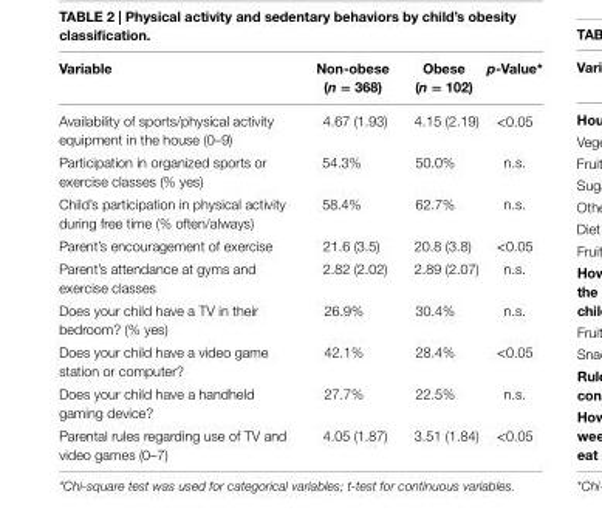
<table><thead><tr><td>Variable</td><td>non-obese (n = 368)</td><td>Obese (n = 102)</td><td>p-Value*</td></tr></thead><tbody><tr><td>Availability of sports/physical activity equipment in the house (0–9)</td><td>4.67 (1.93)</td><td>4.15 (2.19)</td><td>&lt;0.05</td></tr><tr><td>Participation in organized sports or exercise classes (% yes)</td><td>54.3%</td><td>50.0%</td><td>n.s.</td></tr><tr><td>Child’s participation in physical activity during free time (% often/always)</td><td>58.4%</td><td>62.7%</td><td>n.s.</td></tr><tr><td>Parent’s encouragement of exercise</td><td>21.6 (3.5)</td><td>20.8 (3.8)</td><td>&lt;0.05</td></tr><tr><td>Parent’s attendance at gyms and exercise classes</td><td>2.82 (2.02)</td><td>2.89 (2.07)</td><td>n.s.</td></tr><tr><td>Does your child have a TV in their bedroom? (% yes)</td><td>26.9%</td><td>30.4%</td><td>n.s.</td></tr><tr><td>Does your child have a video game station or computer?</td><td>42.1%</td><td>28.4%</td><td>&lt;0.05</td></tr><tr><td>Does your child have a handheld gaming device?</td><td>27.7%</td><td>22.5%</td><td>n.s.</td></tr><tr><td>Parental rules regarding use of TV and video games (0–7)</td><td>4.05 (1.87)</td><td>3.51 (1.84)</td><td>&lt;0.05</td></tr></tbody></table>